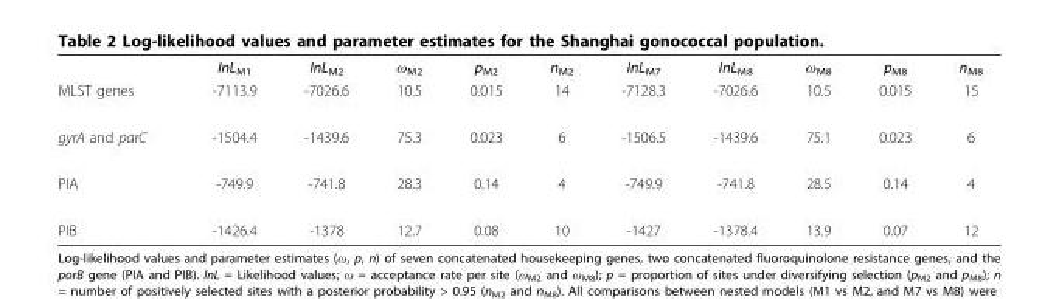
<table><thead><tr><td></td><td>InL<sub>M1</sub></td><td>InL<sub>M2</sub></td><td>ω<sub>M2</sub></td><td>p<sub>M2</sub></td><td>n<sub>M2</sub></td><td>InL<sub>M7</sub></td><td>InL<sub>M8</sub></td><td>ω<sub>M8</sub></td><td>p<sub>M8</sub></td><td>n<sub>M8</sub></td></tr></thead><tbody><tr><td>MLST genes</td><td>-7113.9</td><td>-7026.6</td><td>10.5</td><td>0.015</td><td>14</td><td>-7128.3</td><td>-7026.6</td><td>10.5</td><td>0.015</td><td>15</td></tr><tr><td>gyrA and parC</td><td>-1504.4</td><td>-1439.6</td><td>75.3</td><td>0.023</td><td>6</td><td>-1506.5</td><td>-1439.6</td><td>75.1</td><td>0.023</td><td>6</td></tr><tr><td>PIA</td><td>-749.9</td><td>-741.8</td><td>28.3</td><td>0.14</td><td>4</td><td>-749.9</td><td>-741.8</td><td>28.5</td><td>0.14</td><td>4</td></tr><tr><td>PIB</td><td>-1426.4</td><td>-1378</td><td>12.7</td><td>0.08</td><td>10</td><td>-1427</td><td>-1378.4</td><td>13.9</td><td>0.07</td><td>12</td></tr></tbody></table>